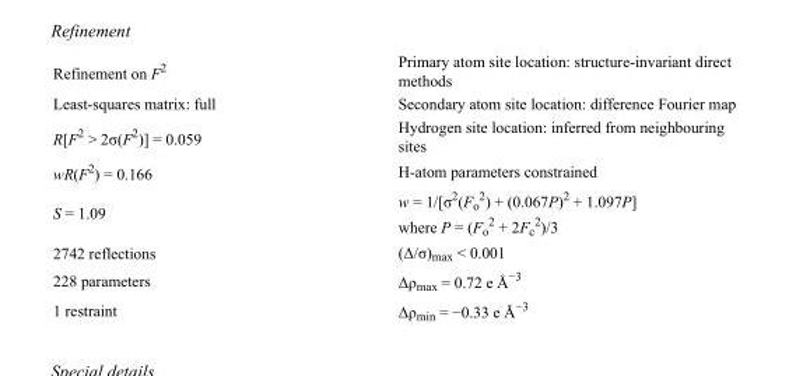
<table><tbody><tr><td>Refinement on F<sup>2</sup></td><td>Primary atom site location: structure-invariant direct methods</td></tr><tr><td>Least-squares matrix: full</td><td>Secondary atom site location: difference Fourier map</td></tr><tr><td>R[F<sup>2</sup> &gt; 2σ(F<sup>2</sup>)] = 0.059</td><td>Hydrogen site location: inferred from neighbouring sites</td></tr><tr><td>wR(F<sup>2</sup>) = 0.166</td><td>H-atom parameters constrained</td></tr><tr><td>S = 1.09</td><td>w = 1/[σ<sup>2</sup>(F<sub>o</sub> <sup>2</sup>) + (0.067P)<sup>2</sup> + 1.097P] where P = (F<sub>o</sub> <sup>2</sup> + 2F<sub>c</sub> <sup>2</sup>)/3</td></tr><tr><td>2742 reflections</td><td>(Δ/σ)<sub>max</sub> &lt; 0.001</td></tr><tr><td>228 parameters</td><td>Δρ<sub>max</sub> = 0.72 e Å<sup>−3</sup></td></tr><tr><td>1 restraint</td><td>Δρ<sub>min</sub> = −0.33 e Å<sup>−3</sup></td></tr></tbody></table>